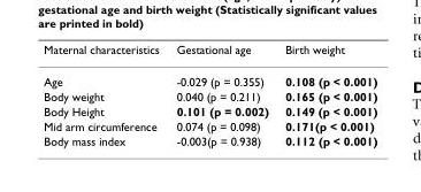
<table><thead><tr><td>Maternal characteristics</td><td>Gestational age</td><td>Birth weight</td></tr></thead><tbody><tr><td>Age</td><td>-0.029 (p = 0.355)</td><td>0.108 (p &lt; 0.001)</td></tr><tr><td>Body weight</td><td>0.040 (p = 0.211)</td><td>0.165 (p &lt; 0.001)</td></tr><tr><td>Body Height</td><td>0.101 (p = 0.002)</td><td>0.149 (p &lt; 0.001)</td></tr><tr><td>Mid arm circumference</td><td>0.074 (p = 0.098)</td><td>0.171(p &lt; 0.001)</td></tr><tr><td>Body mass index</td><td>-0.003(p = 0.938)</td><td>0.112 (p &lt; 0.001)</td></tr></tbody></table>